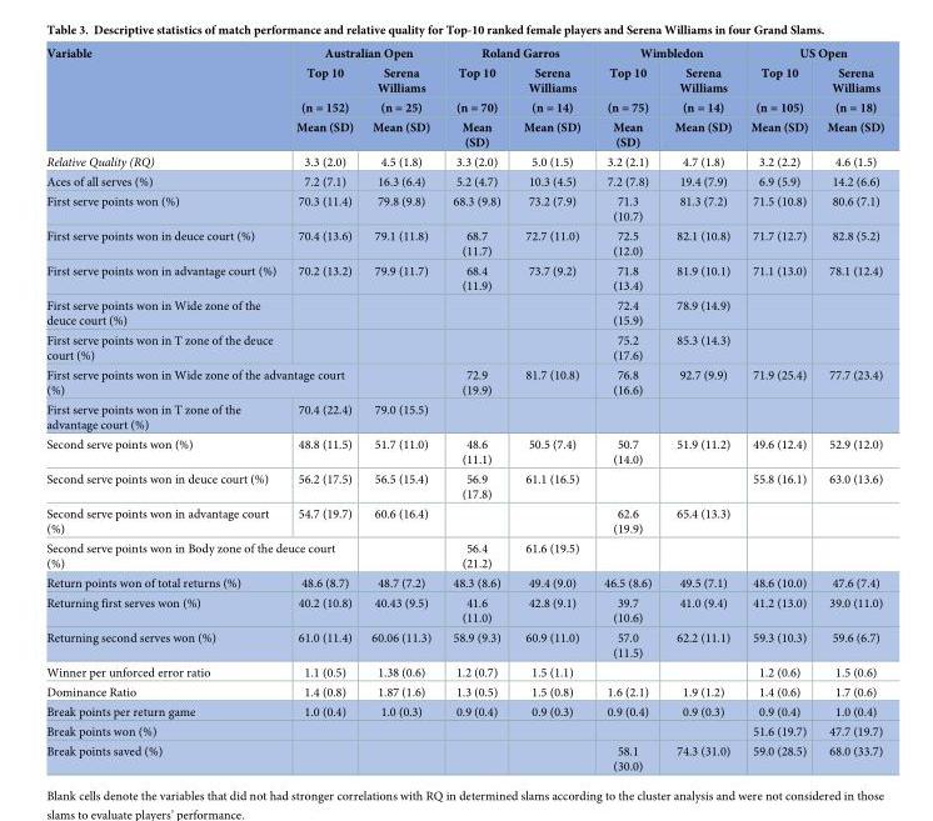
<table><thead><tr><td rowspan="4">Variable</td><td colspan="2">Australian Open</td><td colspan="2">Roland Garros</td><td colspan="2">Wimbledon</td><td colspan="2">US Open</td></tr><tr><td rowspan="3">Top 10 (n = 152) Mean (SD)</td><td rowspan="3">Serena Williams (n = 25) Mean (SD)</td><td rowspan="3">Top 10 (n = 70) Mean (SD)</td><td rowspan="3">Serena Williams (n = 14) Mean (SD)</td><td rowspan="3">Top 10 (n = 75) Mean (SD)</td><td rowspan="3">Serena Williams (n = 14) Mean (SD)</td><td rowspan="3">Top 10 (n = 105) Mean (SD)</td><td rowspan="3">Serena Williams (n = 18) Mean (SD)</td></tr><tr></tr><tr></tr></thead><tbody><tr><td>Relative Quality (RQ)</td><td>3.3 (2.0)</td><td>4.5 (1.8)</td><td>3.3 (2.0)</td><td>5.0 (1.5)</td><td>3.2 (2.1)</td><td>4.7 (1.8)</td><td>3.2 (2.2)</td><td>4.6 (1.5)</td></tr><tr><td>Aces of all serves (%)</td><td>7.2 (7.1)</td><td>16.3 (6.4)</td><td>5.2 (4.7)</td><td>10.3 (4.5)</td><td>7.2 (7.8)</td><td>19.4 (7.9)</td><td>6.9 (5.9)</td><td>14.2 (6.6)</td></tr><tr><td>First serve points won (%)</td><td>70.3 (11.4)</td><td>79.8 (9.8)</td><td>68.3 (9.8)</td><td>73.2 (7.9)</td><td>71.3 (10.7)</td><td>81.3 (7.2)</td><td>71.5 (10.8)</td><td>80.6 (7.1)</td></tr><tr><td>First serve points won in deuce court (%)</td><td>70.4 (13.6)</td><td>79.1 (11.8)</td><td>68.7 (11.7)</td><td>72.7 (11.0)</td><td>72.5 (12.0)</td><td>82.1 (10.8)</td><td>71.7 (12.7)</td><td>82.8 (5.2)</td></tr><tr><td>First serve points won in advantage court (%)</td><td>70.2 (13.2)</td><td>79.9 (11.7)</td><td>68.4 (11.9)</td><td>73.7 (9.2)</td><td>71.8 (13.4)</td><td>81.9 (10.1)</td><td>71.1 (13.0)</td><td>78.1 (12.4)</td></tr><tr><td>First serve points won in Wide zone of the deuce court (%)</td><td></td><td></td><td></td><td></td><td>72.4 (15.9)</td><td>78.9 (14.9)</td><td></td><td></td></tr><tr><td>First serve points won in T zone of the deuce court (%)</td><td></td><td></td><td></td><td></td><td>75.2 (17.6)</td><td>85.3 (14.3)</td><td></td><td></td></tr><tr><td colspan="2">First serve points won in Wide zone of the advantage court (%)</td><td></td><td>72.9 (19.9)</td><td>81.7 (10.8)</td><td>76.8 (16.6)</td><td>92.7 (9.9)</td><td>71.9 (25.4)</td><td>77.7 (23.4)</td></tr><tr><td>First serve points won in T zone of the advantage court (%)</td><td>70.4 (22.4)</td><td>79.0 (15.5)</td><td></td><td></td><td></td><td></td><td></td><td></td></tr><tr><td>Second serve points won (%)</td><td>48.8 (11.5)</td><td>51.7 (11.0)</td><td>48.6 (11.1)</td><td>50.5 (7.4)</td><td>50.7 (14.0)</td><td>51.9 (11.2)</td><td>49.6 (12.4)</td><td>52.9 (12.0)</td></tr><tr><td>Second serve points won in deuce court (%)</td><td>56.2 (17.5)</td><td>56.5 (15.4)</td><td>56.9 (17.8)</td><td>61.1 (16.5)</td><td></td><td></td><td>55.8 (16.1)</td><td>63.0 (13.6)</td></tr><tr><td>Second serve points won in advantage court (%)</td><td>54.7 (19.7)</td><td>60.6 (16.4)</td><td></td><td></td><td>62.6 (19.9)</td><td>65.4 (13.3)</td><td></td><td></td></tr><tr><td colspan="2">Second serve points won in Body zone of the deuce court (%)</td><td></td><td>56.4 (21.2)</td><td>61.6 (19.5)</td><td></td><td></td><td></td><td></td></tr><tr><td>Return points won of total returns (%)</td><td>48.6 (8.7)</td><td>48.7 (7.2)</td><td>48.3 (8.6)</td><td>49.4 (9.0)</td><td>46.5 (8.6)</td><td>49.5 (7.1)</td><td>48.6 (10.0)</td><td>47.6 (7.4)</td></tr><tr><td>Returning first serves won (%)</td><td>40.2 (10.8)</td><td>40.43 (9.5)</td><td>41.6 (11.0)</td><td>42.8 (9.1)</td><td>39.7 (10.6)</td><td>41.0 (9.4)</td><td>41.2 (13.0)</td><td>39.0 (11.0)</td></tr><tr><td>Returning second serves won (%)</td><td>61.0 (11.4)</td><td>60.06 (11.3)</td><td>58.9 (9.3)</td><td>60.9 (11.0)</td><td>57.0 (11.5)</td><td>62.2 (11.1)</td><td>59.3 (10.3)</td><td>59.6 (6.7)</td></tr><tr><td>Winner per unforced error ratio</td><td>1.1 (0.5)</td><td>1.38 (0.6)</td><td>1.2 (0.7)</td><td>1.5 (1.1)</td><td></td><td></td><td>1.2 (0.6)</td><td>1.5 (0.6)</td></tr><tr><td>Dominance Ratio</td><td>1.4 (0.8)</td><td>1.87 (1.6)</td><td>1.3 (0.5)</td><td>1.5 (0.8)</td><td>1.6 (2.1)</td><td>1.9 (1.2)</td><td>1.4 (0.6)</td><td>1.7 (0.6)</td></tr><tr><td>Break points per return game</td><td>1.0 (0.4)</td><td>1.0 (0.3)</td><td>0.9 (0.4)</td><td>0.9 (0.3)</td><td>0.9 (0.4)</td><td>0.9 (0.3)</td><td>0.9 (0.4)</td><td>1.0 (0.4)</td></tr><tr><td>Break points won (%)</td><td></td><td></td><td></td><td></td><td></td><td></td><td>51.6 (19.7)</td><td>47.7 (19.7)</td></tr><tr><td>Break points saved (%)</td><td></td><td></td><td></td><td></td><td>58.1 (30.0)</td><td>74.3 (31.0)</td><td>59.0 (28.5)</td><td>68.0 (33.7)</td></tr></tbody></table>